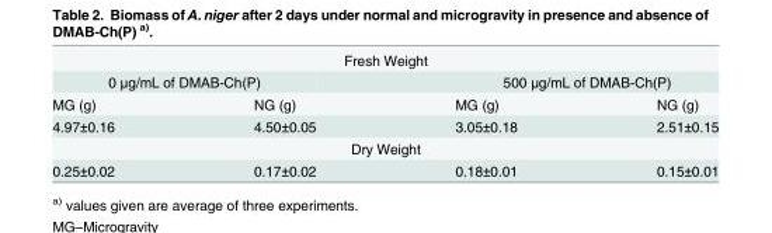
<table><tbody><tr><td colspan="4">Fresh Weight</td></tr><tr><td colspan="2">0 μg/mL of DMAB-Ch(P)</td><td colspan="2">500 μg/mL of DMAB-Ch(P)</td></tr><tr><td>MG (g)</td><td>NG (g)</td><td>MG (g)</td><td>NG (g)</td></tr><tr><td>4.97±0.16</td><td>4.50±0.05</td><td>3.05±0.18</td><td>2.51±0.15</td></tr><tr><td colspan="4">Dry Weight</td></tr><tr><td>0.25±0.02</td><td>0.17±0.02</td><td>0.18±0.01</td><td>0.15±0.01</td></tr></tbody></table>